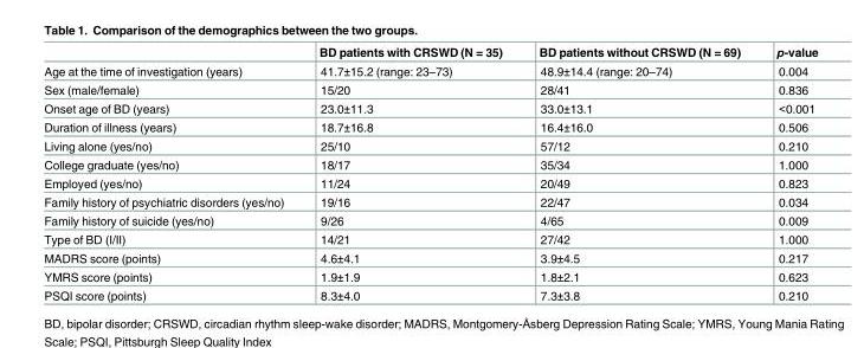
<table><thead><tr><td></td><td>BD patients with CRSWD (N = 35)</td><td>BD patients without CRSWD (N = 69)</td><td>p-value</td></tr></thead><tbody><tr><td>Age at the time of investigation (years)</td><td>41.7±15.2 (range: 23–73)</td><td>48.9±14.4 (range: 20–74)</td><td>0.004</td></tr><tr><td>Sex (male/female)</td><td>15/20</td><td>28/41</td><td>0.836</td></tr><tr><td>Onset age of BD (years)</td><td>23.0±11.3</td><td>33.0±13.1</td><td>&lt;0.001</td></tr><tr><td>Duration of illness (years)</td><td>18.7±16.8</td><td>16.4±16.0</td><td>0.506</td></tr><tr><td>Living alone (yes/no)</td><td>25/10</td><td>57/12</td><td>0.210</td></tr><tr><td>College graduate (yes/no)</td><td>18/17</td><td>35/34</td><td>1.000</td></tr><tr><td>Employed (yes/no)</td><td>11/24</td><td>20/49</td><td>0.823</td></tr><tr><td>Family history of psychiatric disorders (yes/no)</td><td>19/16</td><td>22/47</td><td>0.034</td></tr><tr><td>Family history of suicide (yes/no)</td><td>9/26</td><td>4/65</td><td>0.009</td></tr><tr><td>Type of BD (I/II)</td><td>14/21</td><td>27/42</td><td>1.000</td></tr><tr><td>MADRS score (points)</td><td>4.6±4.1</td><td>3.9±4.5</td><td>0.217</td></tr><tr><td>YMRS score (points)</td><td>1.9±1.9</td><td>1.8±2.1</td><td>0.623</td></tr><tr><td>PSQI score (points)</td><td>8.3±4.0</td><td>7.3±3.8</td><td>0.210</td></tr></tbody></table>